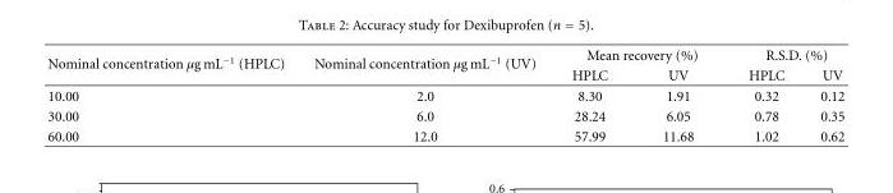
<table><thead><tr><td rowspan="2">Nominal concentration μg mL<sup>−1</sup> (HPLC)</td><td rowspan="2">Nominal concentration μg mL<sup>−1</sup> (UV)</td><td colspan="2">Mean recovery (%)</td><td colspan="2">R.S.D. (%)</td></tr><tr><td>HPLC</td><td>UV</td><td>HPLC</td><td>UV</td></tr></thead><tbody><tr><td>10.00</td><td>2.0</td><td>8.30</td><td>1.91</td><td>0.32</td><td>0.12</td></tr><tr><td>30.00</td><td>6.0</td><td>28.24</td><td>6.05</td><td>0.78</td><td>0.35</td></tr><tr><td>60.00</td><td>12.0</td><td>57.99</td><td>11.68</td><td>1.02</td><td>0.62</td></tr></tbody></table>